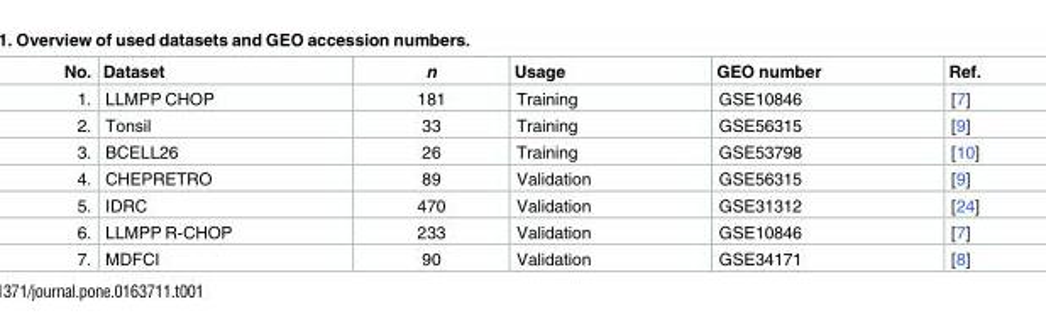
<table><thead><tr><td>No.</td><td>Dataset</td><td>n</td><td>Usage</td><td>GEO number</td><td>Ref.</td></tr></thead><tbody><tr><td>1.</td><td>LLMPP CHOP</td><td>181</td><td>Training</td><td>GSE10846</td><td>[7]</td></tr><tr><td>2.</td><td>Tonsil</td><td>33</td><td>Training</td><td>GSE56315</td><td>[9]</td></tr><tr><td>3.</td><td>BCELL26</td><td>26</td><td>Training</td><td>GSE53798</td><td>[10]</td></tr><tr><td>4.</td><td>CHEPRETRO</td><td>89</td><td>Validation</td><td>GSE56315</td><td>[9]</td></tr><tr><td>5.</td><td>IDRC</td><td>470</td><td>Validation</td><td>GSE31312</td><td>[24]</td></tr><tr><td>6.</td><td>LLMPP R-CHOP</td><td>233</td><td>Validation</td><td>GSE10846</td><td>[7]</td></tr><tr><td>7.</td><td>MDFCI</td><td>90</td><td>Validation</td><td>GSE34171</td><td>[8]</td></tr></tbody></table>